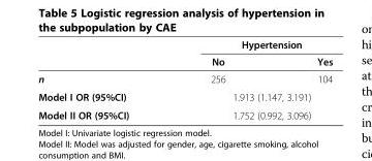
<table><thead><tr><td rowspan="2"></td><td colspan="2">Hypertension</td></tr><tr><td>No</td><td>Yes</td></tr></thead><tbody><tr><td>n</td><td>256</td><td>104</td></tr><tr><td>Model I OR (95%CI)</td><td colspan="2">1.913 (1.147, 3.191)</td></tr><tr><td>Model II OR (95%CI)</td><td colspan="2">1.752 (0.992, 3.096)</td></tr></tbody></table>